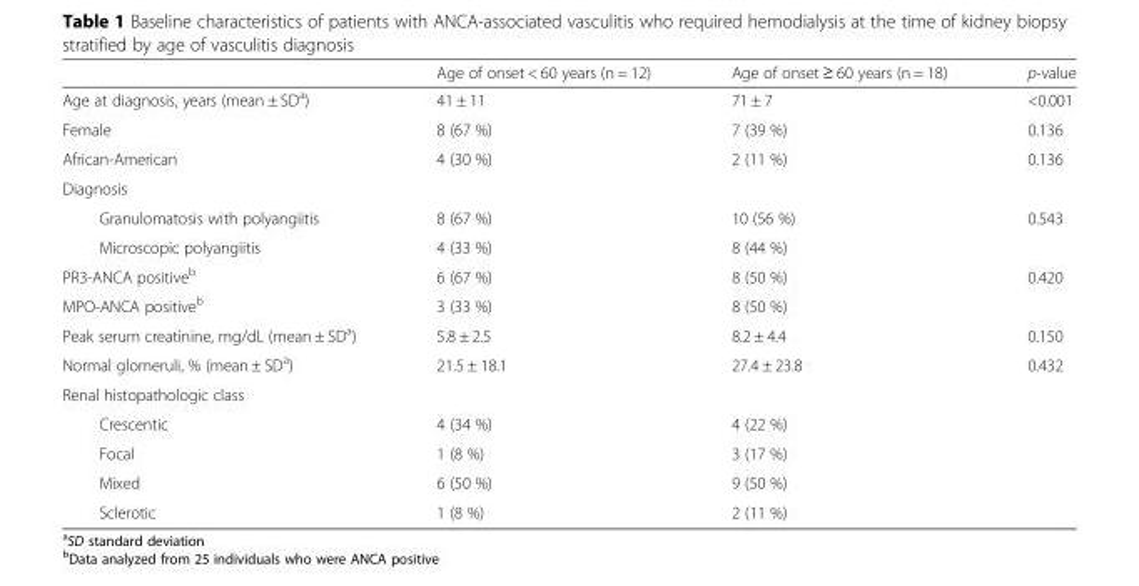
<table><thead><tr><td></td><td>Age of onset &lt; 60 years (n = 12)</td><td>Age of onset ≥ 60 years (n = 18)</td><td>p-value</td></tr></thead><tbody><tr><td>Age at diagnosis, years (mean ± SD<sup>a</sup>)</td><td>41 ± 11</td><td>71 ± 7</td><td>&lt;0.001</td></tr><tr><td>Female</td><td>8 (67 %)</td><td>7 (39 %)</td><td>0.136</td></tr><tr><td>African-American</td><td>4 (30 %)</td><td>2 (11 %)</td><td>0.136</td></tr><tr><td colspan="4">Diagnosis</td></tr><tr><td>Granulomatosis with polyangiitis</td><td>8 (67 %)</td><td>10 (56 %)</td><td>0.543</td></tr><tr><td>Microscopic polyangiitis</td><td>4 (33 %)</td><td>8 (44 %)</td><td></td></tr><tr><td>PR3-ANCA positive<sup>b</sup></td><td>6 (67 %)</td><td>8 (50 %)</td><td>0.420</td></tr><tr><td>MPO-ANCA positive<sup>b</sup></td><td>3 (33 %)</td><td>8 (50 %)</td><td></td></tr><tr><td>Peak serum creatinine, mg/dL (mean ± SD<sup>a</sup>)</td><td>5.8 ± 2.5</td><td>8.2 ± 4.4</td><td>0.150</td></tr><tr><td>Normal glomeruli, % (mean ± SD<sup>a</sup>)</td><td>21.5 ± 18.1</td><td>27.4 ± 23.8</td><td>0.432</td></tr><tr><td colspan="4">Renal histopathologic class</td></tr><tr><td>Crescentic</td><td>4 (34 %)</td><td>4 (22 %)</td><td></td></tr><tr><td>Focal</td><td>1 (8 %)</td><td>3 (17 %)</td><td></td></tr><tr><td>Mixed</td><td>6 (50 %)</td><td>9 (50 %)</td><td></td></tr><tr><td>Sclerotic</td><td>1 (8 %)</td><td>2 (11 %)</td><td></td></tr></tbody></table>